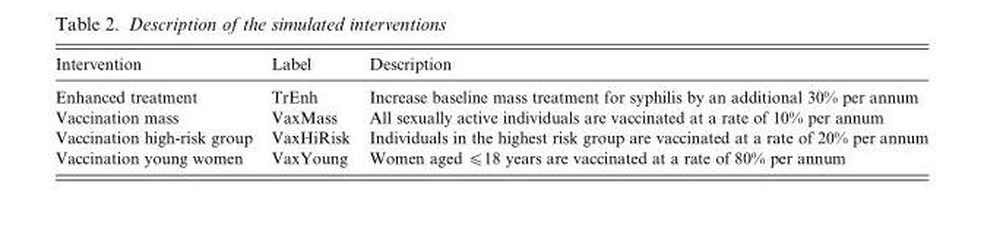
<table><thead><tr><td>Intervention</td><td>Label</td><td>Description</td></tr></thead><tbody><tr><td>Enhanced treatment</td><td>TrEnh</td><td>Increase baseline mass treatment for syphilis by an additional 30% per annum</td></tr><tr><td>Vaccination mass</td><td>VaxMass</td><td>All sexually active individuals are vaccinated at a rate of 10% per annum</td></tr><tr><td>Vaccination high-risk group</td><td>VaxHiRisk</td><td>Individuals in the highest risk group are vaccinated at a rate of 20% per annum</td></tr><tr><td>Vaccination young women</td><td>VaxYoung</td><td>Women aged ⩽18 years are vaccinated at a rate of 80% per annum</td></tr></tbody></table>